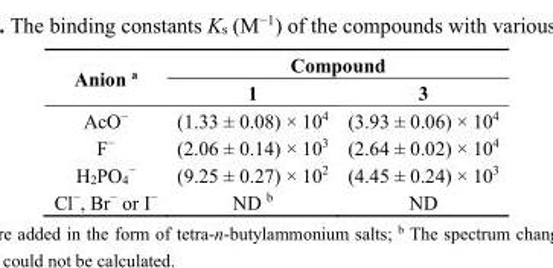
<table><thead><tr><td rowspan="2">Anion <sup>a</sup></td><td colspan="2">Compound</td></tr><tr><td>1</td><td>3</td></tr></thead><tbody><tr><td>AcO<sup>−</sup></td><td>(1.33 ± 0.08) × 10<sup>4</sup></td><td>(3.93 ± 0.06) × 10<sup>4</sup></td></tr><tr><td>F<sup>−</sup></td><td>(2.06 ± 0.14) × 10<sup>3</sup></td><td>(2.64 ± 0.02) × 10<sup>4</sup></td></tr><tr><td>H<sub>2</sub>PO<sub>4</sub><sup>−</sup></td><td>(9.25 ± 0.27) × 10<sup>2</sup></td><td>(4.45 ± 0.24) × 10<sup>3</sup></td></tr><tr><td>Cl<sup>−</sup>, Br<sup>−</sup> or I<sup>−</sup></td><td>ND <sup>b</sup></td><td>ND</td></tr></tbody></table>